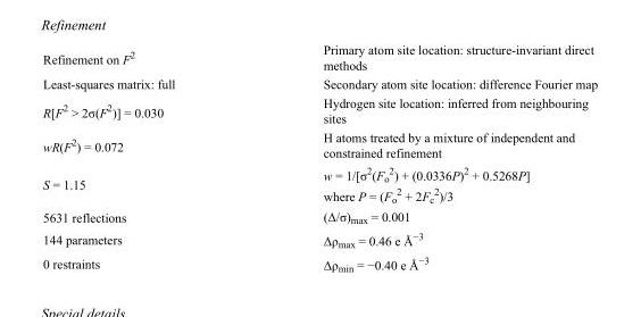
<table><tbody><tr><td>Refinement on F<sup>2</sup></td><td>Primary atom site location: structure-invariant direct methods</td></tr><tr><td>Least-squares matrix: full</td><td>Secondary atom site location: difference Fourier map</td></tr><tr><td>R[F<sup>2</sup> &gt; 2σ(F<sup>2</sup>)] = 0.030</td><td>Hydrogen site location: inferred from neighbouring sites</td></tr><tr><td>wR(F<sup>2</sup>) = 0.072</td><td>H atoms treated by a mixture of independent and constrained refinement</td></tr><tr><td>S = 1.15</td><td>w = 1/[σ<sup>2</sup>(F<sub>o</sub> <sup>2</sup>) + (0.0336P)<sup>2</sup> + 0.5268P] where P = (F<sub>o</sub> <sup>2</sup> + 2F<sub>c</sub> <sup>2</sup>)/3</td></tr><tr><td>5631 reflections</td><td>(Δ/σ)<sub>max</sub> = 0.001</td></tr><tr><td>144 parameters</td><td>Δρ<sub>max</sub> = 0.46 e Å<sup>−3</sup></td></tr><tr><td>0 restraints</td><td>Δρ<sub>min</sub> = −0.40 e Å<sup>−3</sup></td></tr></tbody></table>